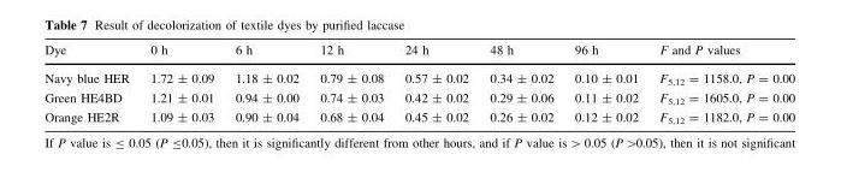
<table><thead><tr><td>Dye</td><td>0 h</td><td>6 h</td><td>12 h</td><td>24 h</td><td>48 h</td><td>96 h</td><td>F and P values</td></tr></thead><tbody><tr><td>Navy blue HER</td><td>1.72 ± 0.09</td><td>1.18 ± 0.02</td><td>0.79 ± 0.08</td><td>0.57 ± 0.02</td><td>0.34 ± 0.02</td><td>0.10 ± 0.01</td><td>F<sub>5,12</sub> = 1158.0, P = 0.00</td></tr><tr><td>Green HE4BD</td><td>1.21 ± 0.01</td><td>0.94 ± 0.00</td><td>0.74 ± 0.03</td><td>0.42 ± 0.02</td><td>0.29 ± 0.06</td><td>0.11 ± 0.02</td><td>F<sub>5,12</sub> = 1605.0, P = 0.00</td></tr><tr><td>Orange HE2R</td><td>1.09 ± 0.03</td><td>0.90 ± 0.04</td><td>0.68 ± 0.04</td><td>0.45 ± 0.02</td><td>0.26 ± 0.02</td><td>0.12 ± 0.02</td><td>F<sub>5,12</sub> = 1182.0, P = 0.00</td></tr></tbody></table>